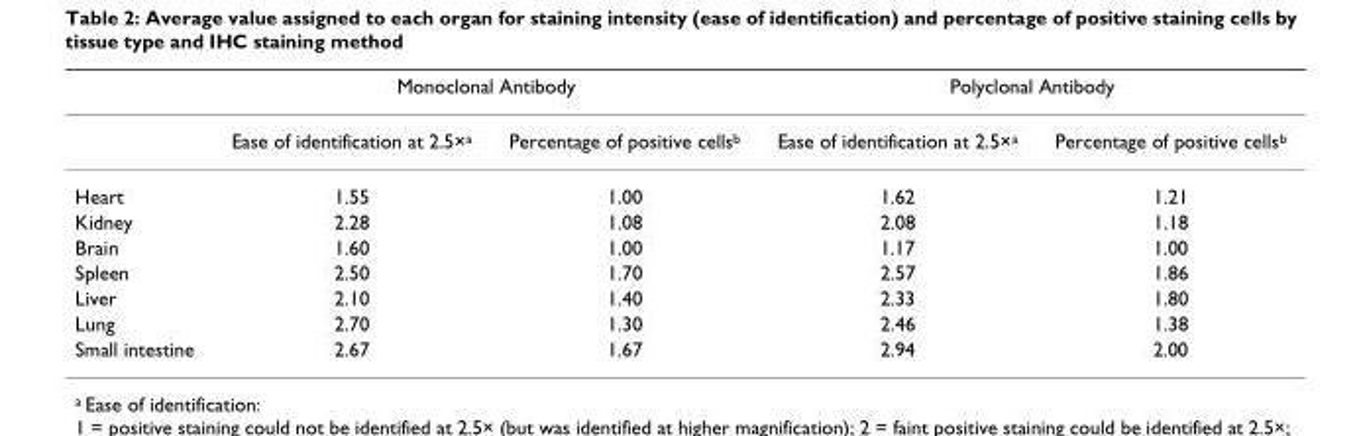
<table><thead><tr><td rowspan="2"></td><td colspan="2">Monoclonal Antibody</td><td colspan="2">Polyclonal Antibody</td></tr><tr><td>Ease of identification at 2.5×<sup>a</sup></td><td>Percentage of positive cells<sup>b</sup></td><td>Ease of identification at 2.5×<sup>a</sup></td><td>Percentage of positive cells<sup>b</sup></td></tr></thead><tbody><tr><td>Heart</td><td>1.55</td><td>1.00</td><td>1.62</td><td>1.21</td></tr><tr><td>Kidney</td><td>2.28</td><td>1.08</td><td>2.08</td><td>1.18</td></tr><tr><td>Brain</td><td>1.60</td><td>1.00</td><td>1.17</td><td>1.00</td></tr><tr><td>Spleen</td><td>2.50</td><td>1.70</td><td>2.57</td><td>1.86</td></tr><tr><td>Liver</td><td>2.10</td><td>1.40</td><td>2.33</td><td>1.80</td></tr><tr><td>Lung</td><td>2.70</td><td>1.30</td><td>2.46</td><td>1.38</td></tr><tr><td>Small intestine</td><td>2.67</td><td>1.67</td><td>2.94</td><td>2.00</td></tr></tbody></table>